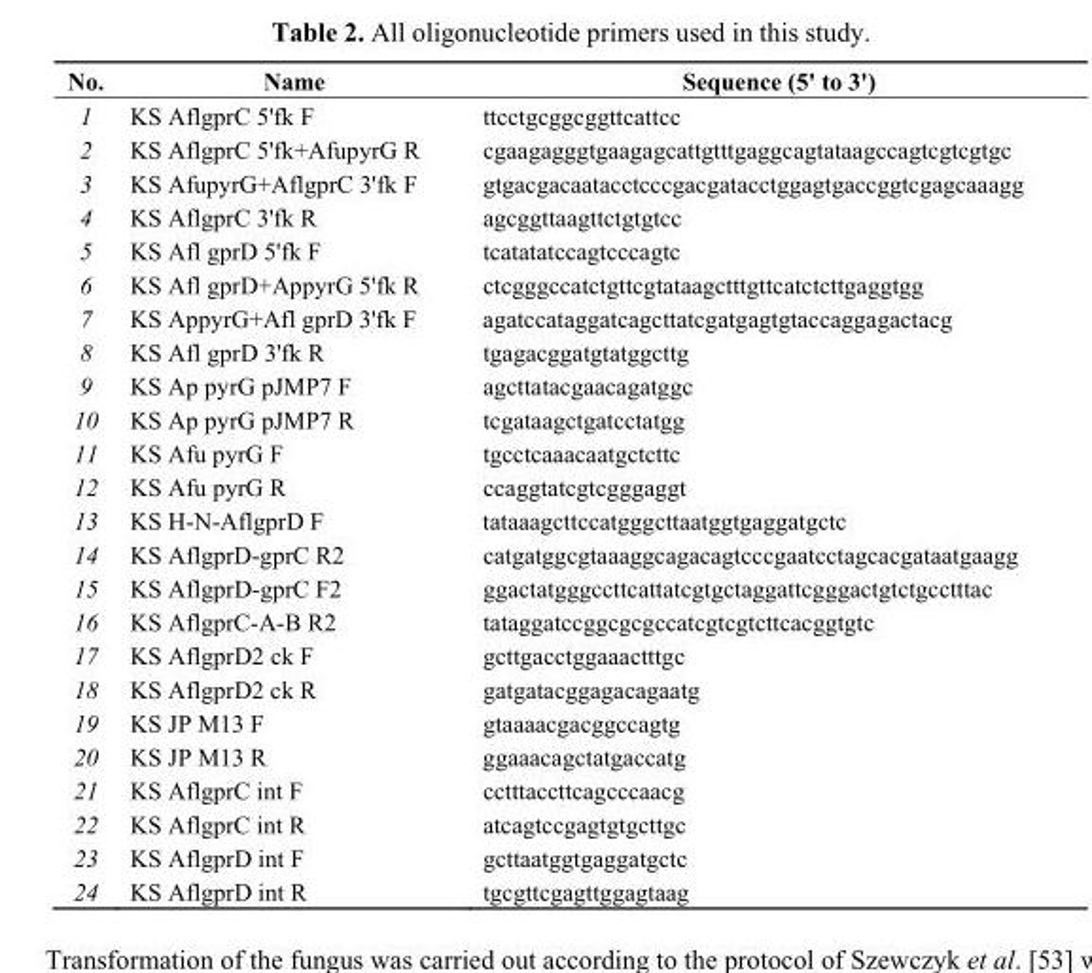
<table><thead><tr><td>No.</td><td>Name</td><td>Sequence (5&#x27; to 3&#x27;)</td></tr></thead><tbody><tr><td>1</td><td>KS AflgprC 5&#x27;fk F</td><td>ttcctgcggcggttcattcc</td></tr><tr><td>2</td><td>KS AflgprC 5&#x27;fk+AfupyrG R</td><td>cgaagagggtgaagagcattgtttgaggcagtataagccagtcgtcgtgc</td></tr><tr><td>3</td><td>KS AfupyrG+AflgprC 3&#x27;fk F</td><td>gtgacgacaatacctcccgacgatacctggagtgaccggtcgagcaaagg</td></tr><tr><td>4</td><td>KS AflgprC 3&#x27;fk R</td><td>agcggttaagttctgtgtcc</td></tr><tr><td>5</td><td>KS Afl gprD 5&#x27;fk F</td><td>tcatatatccagtcccagtc</td></tr><tr><td>6</td><td>KS Afl gprD+AppyrG 5&#x27;fk R</td><td>ctcgggccatctgttcgtataagctttgttcatctcttgaggtgg</td></tr><tr><td>7</td><td>KS AppyrG+Afl gprD 3&#x27;fk F</td><td>agatccataggatcagcttatcgatgagtgtaccaggagactacg</td></tr><tr><td>8</td><td>KS Afl gprD 3&#x27;fk R</td><td>tgagacggatgtatggcttg</td></tr><tr><td>9</td><td>KS Ap pyrG pJMP7 F</td><td>agcttatacgaacagatggc</td></tr><tr><td>10</td><td>KS Ap pyrG pJMP7 R</td><td>tcgataagctgatcctatgg</td></tr><tr><td>11</td><td>KS Afu pyrG F</td><td>tgcctcaaacaatgctcttc</td></tr><tr><td>12</td><td>KS Afu pyrG R</td><td>ccaggtatcgtcgggaggt</td></tr><tr><td>13</td><td>KS H-N-AflgprD F</td><td>tataaagcttccatgggcttaatggtgaggatgctc</td></tr><tr><td>14</td><td>KS AflgprD-gprC R2</td><td>catgatggcgtaaaggcagacagtcccgaatcctagcacgataatgaagg</td></tr><tr><td>15</td><td>KS AflgprD-gprC F2</td><td>ggactatgggccttcattatcgtgctaggattcgggactgtctgcctttac</td></tr><tr><td>16</td><td>KS AflgprC-A-B R2</td><td>tataggatccggcgcgccatcgtcgtcttcacggtgtc</td></tr><tr><td>17</td><td>KS AflgprD2 ck F</td><td>gcttgacctggaaactttgc</td></tr><tr><td>18</td><td>KS AflgprD2 ck R</td><td>gatgatacggagacagaatg</td></tr><tr><td>19</td><td>KS JP M13 F</td><td>gtaaaacgacggccagtg</td></tr><tr><td>20</td><td>KS JP M13 R</td><td>ggaaacagctatgaccatg</td></tr><tr><td>21</td><td>KS AflgprC int F</td><td>cctttaccttcagcccaacg</td></tr><tr><td>22</td><td>KS AflgprC int R</td><td>atcagtccgagtgtgcttgc</td></tr><tr><td>23</td><td>KS AflgprD int F</td><td>gcttaatggtgaggatgctc</td></tr><tr><td>24</td><td>KS AflgprD int R</td><td>tgcgttcgagttggagtaag</td></tr></tbody></table>